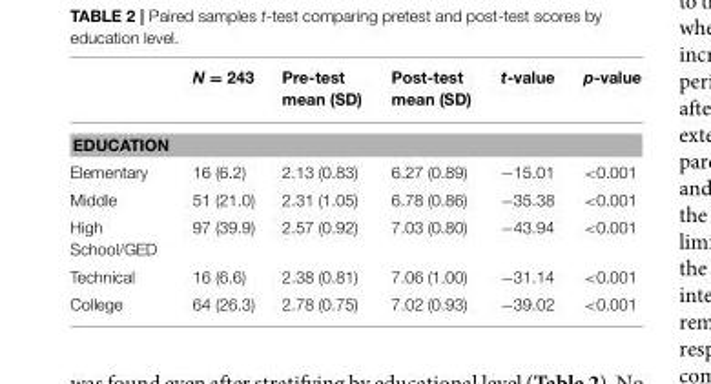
<table><thead><tr><td></td><td>N = 243</td><td>Pre-test mean (SD)</td><td>Post-test mean (SD)</td><td>t-value</td><td>p-value</td></tr></thead><tbody><tr><td colspan="6">EDUCATION</td></tr><tr><td>Elementary</td><td>16 (6.2)</td><td>2.13 (0.83)</td><td>6.27 (0.89)</td><td>−15.01</td><td>&lt;0.001</td></tr><tr><td>Middle</td><td>51 (21.0)</td><td>2.31 (1.05)</td><td>6.78 (0.86)</td><td>−35.38</td><td>&lt;0.001</td></tr><tr><td>High School/GED</td><td>97 (39.9)</td><td>2.57 (0.92)</td><td>7.03 (0.80)</td><td>−43.94</td><td>&lt;0.001</td></tr><tr><td>Technical</td><td>16 (6.6)</td><td>2.38 (0.81)</td><td>7.06 (1.00)</td><td>−31.14</td><td>&lt;0.001</td></tr><tr><td>College</td><td>64 (26.3)</td><td>2.78 (0.75)</td><td>7.02 (0.93)</td><td>−39.02</td><td>&lt;0.001</td></tr></tbody></table>